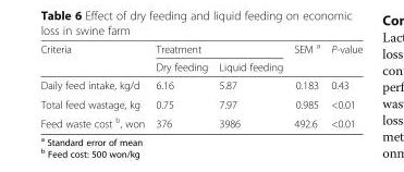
<table><thead><tr><td rowspan="2">Criteria</td><td colspan="2">Treatment</td><td rowspan="2">SEM <sup>a</sup></td><td rowspan="2">P-value</td></tr><tr><td>Dry feeding</td><td>Liquid feeding</td></tr></thead><tbody><tr><td>Daily feed intake, kg/d</td><td>6.16</td><td>5.87</td><td>0.183</td><td>0.43</td></tr><tr><td>Total feed wastage, kg</td><td>0.75</td><td>7.97</td><td>0.985</td><td>&lt;0.01</td></tr><tr><td>Feed waste cost <sup>b</sup>, won</td><td>376</td><td>3986</td><td>492.6</td><td>&lt;0.01</td></tr></tbody></table>